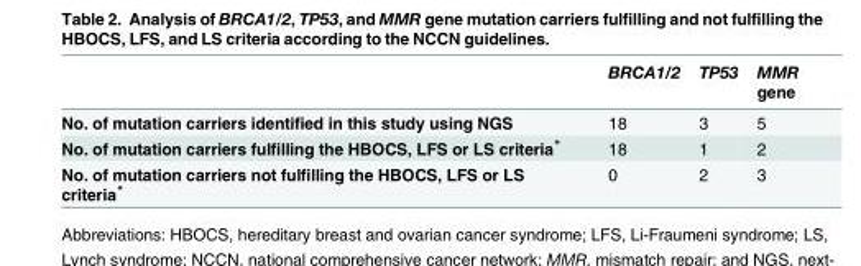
<table><thead><tr><td></td><td>BRCA1/2</td><td>TP53</td><td>MMR gene</td></tr></thead><tbody><tr><td>No. of mutation carriers identified in this study using NGS</td><td>18</td><td>3</td><td>5</td></tr><tr><td>No. of mutation carriers fulfilling the HBOCS, LFS or LS criteria*</td><td>18</td><td>1</td><td>2</td></tr><tr><td>No. of mutation carriers not fulfilling the HBOCS, LFS or LS criteria*</td><td>0</td><td>2</td><td>3</td></tr></tbody></table>